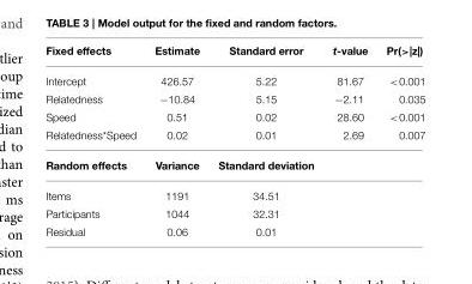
<table><thead><tr><td>Fixed effects</td><td>Estimate</td><td>Standard error</td><td>t-value</td><td>Pr(&gt;|z|)</td></tr></thead><tbody><tr><td>Intercept</td><td>426.57</td><td>5.22</td><td>81.67</td><td>&lt;0.001</td></tr><tr><td>Relatedness</td><td>−10.84</td><td>5.15</td><td>−2.11</td><td>0.035</td></tr><tr><td>Speed</td><td>0.51</td><td>0.02</td><td>28.60</td><td>&lt;0.001</td></tr><tr><td>Relatedness*Speed</td><td>0.02</td><td>0.01</td><td>2.69</td><td>0.007</td></tr><tr><td>Random effects</td><td>Variance</td><td>Standard deviation</td><td></td><td></td></tr><tr><td>Items</td><td>1191</td><td>34.51</td><td></td><td></td></tr><tr><td>Participants</td><td>1044</td><td>32.31</td><td></td><td></td></tr><tr><td>Residual</td><td>0.06</td><td>0.01</td><td></td><td></td></tr></tbody></table>